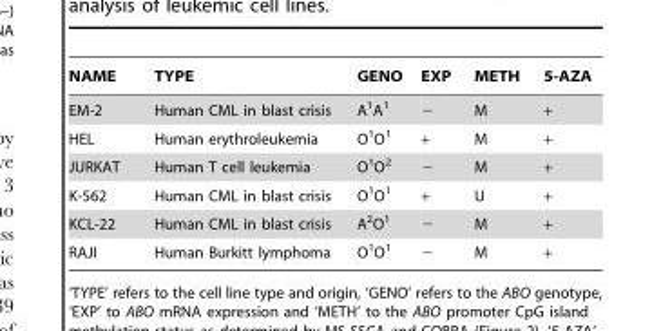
<table><thead><tr><td>NAME</td><td>TYPE</td><td>GENO</td><td>EXP</td><td>METH</td><td>5-AZA</td></tr></thead><tbody><tr><td>EM-2</td><td>Human CML in blast crisis</td><td>A<sup>1</sup>A<sup>1</sup></td><td>−</td><td>M</td><td>+</td></tr><tr><td>HEL</td><td>Human erythroleukemia</td><td>O<sup>1</sup>O<sup>1</sup></td><td>+</td><td>M</td><td>+</td></tr><tr><td>JURKAT</td><td>Human T cell leukemia</td><td>O<sup>1</sup>O<sup>2</sup></td><td>−</td><td>M</td><td>+</td></tr><tr><td>K-562</td><td>Human CML in blast crisis</td><td>O<sup>1</sup>O<sup>1</sup></td><td>+</td><td>U</td><td>+</td></tr><tr><td>KCL-22</td><td>Human CML in blast crisis</td><td>A<sup>2</sup>O<sup>1</sup></td><td>−</td><td>M</td><td>+</td></tr><tr><td>RAJI</td><td>Human Burkitt lymphoma</td><td>O<sup>1</sup>O<sup>1</sup></td><td>−</td><td>M</td><td>+</td></tr></tbody></table>